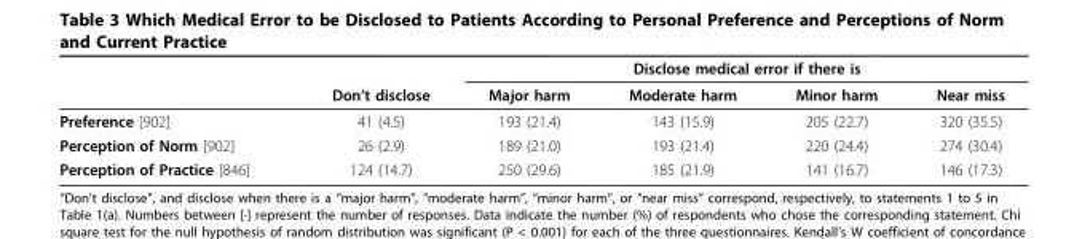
<table><thead><tr><td rowspan="2"></td><td rowspan="2">Don’t disclose</td><td colspan="4">Disclose medical error if there is</td></tr><tr><td>Major harm</td><td>Moderate harm</td><td>Minor harm</td><td>Near miss</td></tr></thead><tbody><tr><td>Preference [902]</td><td>41 (4.5)</td><td>193 (21.4)</td><td>143 (15.9)</td><td>205 (22.7)</td><td>320 (35.5)</td></tr><tr><td>Perception of Norm [902]</td><td>26 (2.9)</td><td>189 (21.0)</td><td>193 (21.4)</td><td>220 (24.4)</td><td>274 (30.4)</td></tr><tr><td>Perception of Practice [846]</td><td>124 (14.7)</td><td>250 (29.6)</td><td>185 (21.9)</td><td>141 (16.7)</td><td>146 (17.3)</td></tr></tbody></table>